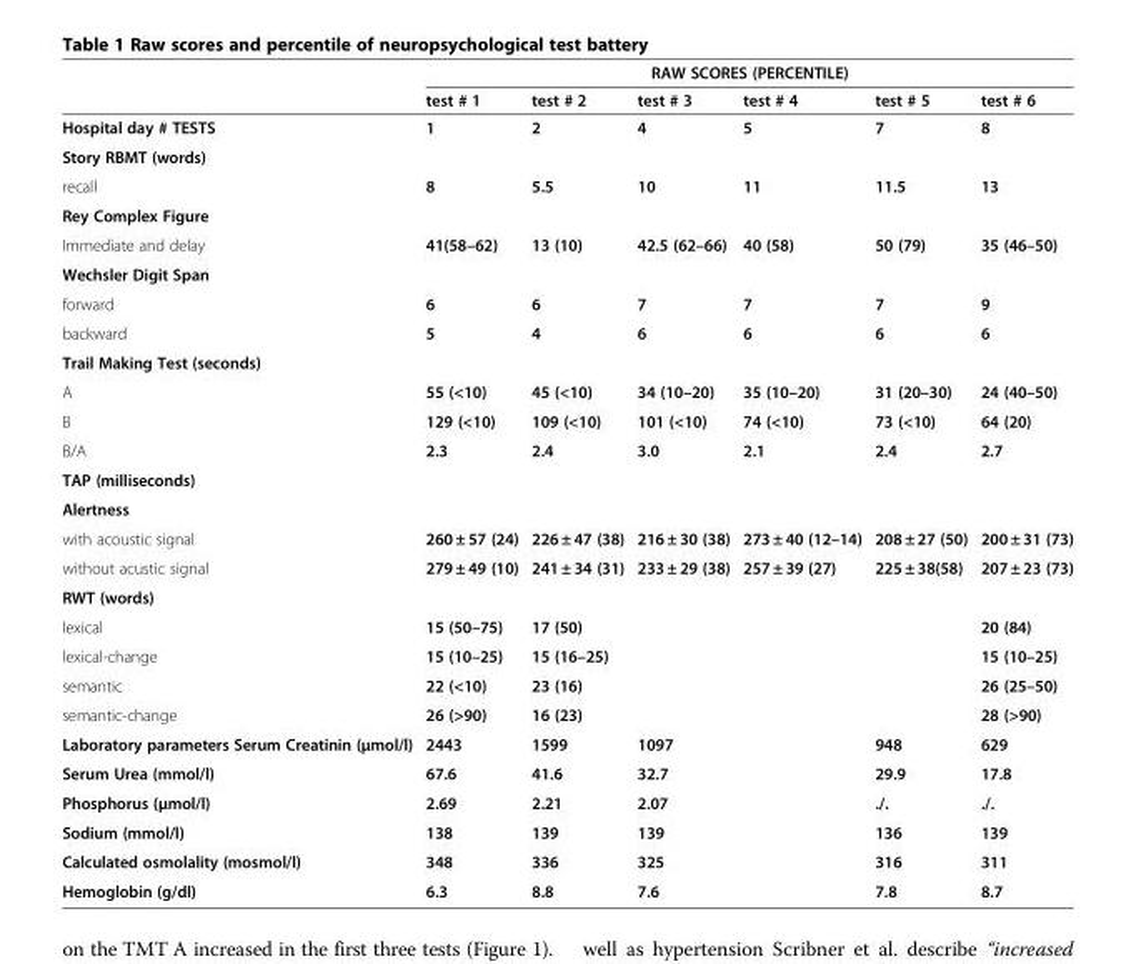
<table><thead><tr><td rowspan="2"></td><td colspan="6">RAW SCORES (PERCENTILE)</td></tr><tr><td>test # 1</td><td>test # 2</td><td>test # 3</td><td>test # 4</td><td>test # 5</td><td>test # 6</td></tr></thead><tbody><tr><td>Hospital day # TESTS</td><td>1</td><td>2</td><td>4</td><td>5</td><td>7</td><td>8</td></tr><tr><td colspan="7">Story RBMT (words)</td></tr><tr><td>recall</td><td>8</td><td>5.5</td><td>10</td><td>11</td><td>11.5</td><td>13</td></tr><tr><td colspan="7">Rey Complex Figure</td></tr><tr><td>Immediate and delay</td><td>41(58–62)</td><td>13 (10)</td><td>42.5 (62–66)</td><td>40 (58)</td><td>50 (79)</td><td>35 (46–50)</td></tr><tr><td colspan="7">Wechsler Digit Span</td></tr><tr><td>forward</td><td>6</td><td>6</td><td>7</td><td>7</td><td>7</td><td>9</td></tr><tr><td>backward</td><td>5</td><td>4</td><td>6</td><td>6</td><td>6</td><td>6</td></tr><tr><td colspan="7">Trail Making Test (seconds)</td></tr><tr><td>A</td><td>55 (&lt;10)</td><td>45 (&lt;10)</td><td>34 (10–20)</td><td>35 (10–20)</td><td>31 (20–30)</td><td>24 (40–50)</td></tr><tr><td>B</td><td>129 (&lt;10)</td><td>109 (&lt;10)</td><td>101 (&lt;10)</td><td>74 (&lt;10)</td><td>73 (&lt;10)</td><td>64 (20)</td></tr><tr><td>B/A</td><td>2.3</td><td>2.4</td><td>3.0</td><td>2.1</td><td>2.4</td><td>2.7</td></tr><tr><td colspan="7">TAP (milliseconds)</td></tr><tr><td colspan="7">Alertness</td></tr><tr><td>with acoustic signal</td><td>260 ± 57 (24)</td><td>226 ± 47 (38)</td><td>216 ± 30 (38)</td><td>273 ± 40 (12–14)</td><td>208 ± 27 (50)</td><td>200 ± 31 (73)</td></tr><tr><td>without acustic signal</td><td>279 ± 49 (10)</td><td>241 ± 34 (31)</td><td>233 ± 29 (38)</td><td>257 ± 39 (27)</td><td>225 ± 38(58)</td><td>207 ± 23 (73)</td></tr><tr><td colspan="7">RWT (words)</td></tr><tr><td>lexical</td><td>15 (50–75)</td><td>17 (50)</td><td></td><td></td><td></td><td>20 (84)</td></tr><tr><td>lexical-change</td><td>15 (10–25)</td><td>15 (16–25)</td><td></td><td></td><td></td><td>15 (10–25)</td></tr><tr><td>semantic</td><td>22 (&lt;10)</td><td>23 (16)</td><td></td><td></td><td></td><td>26 (25–50)</td></tr><tr><td>semantic-change</td><td>26 (&gt;90)</td><td>16 (23)</td><td></td><td></td><td></td><td>28 (&gt;90)</td></tr><tr><td>Laboratory parameters Serum Creatinin (μmol/l)</td><td>2443</td><td>1599</td><td>1097</td><td></td><td>948</td><td>629</td></tr><tr><td>Serum Urea (mmol/l)</td><td>67.6</td><td>41.6</td><td>32.7</td><td></td><td>29.9</td><td>17.8</td></tr><tr><td>Phosphorus (μmol/l)</td><td>2.69</td><td>2.21</td><td>2.07</td><td></td><td>./.</td><td>./.</td></tr><tr><td>Sodium (mmol/l)</td><td>138</td><td>139</td><td>139</td><td></td><td>136</td><td>139</td></tr><tr><td>Calculated osmolality (mosmol/l)</td><td>348</td><td>336</td><td>325</td><td></td><td>316</td><td>311</td></tr><tr><td>Hemoglobin (g/dl)</td><td>6.3</td><td>8.8</td><td>7.6</td><td></td><td>7.8</td><td>8.7</td></tr></tbody></table>